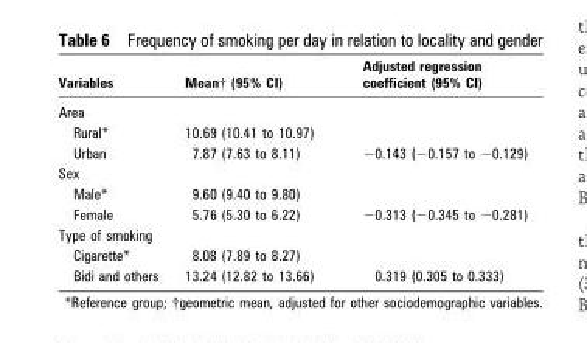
<table><thead><tr><td>Variables</td><td>Mean† (95% CI)</td><td>Adjusted regression coefficient (95% CI)</td></tr></thead><tbody><tr><td colspan="3">Area</td></tr><tr><td>Rural*</td><td>10.69 (10.41 to 10.97)</td><td></td></tr><tr><td>Urban</td><td>7.87 (7.63 to 8.11)</td><td>−0.143 (−0.157 to −0.129)</td></tr><tr><td colspan="3">Sex</td></tr><tr><td>Male*</td><td>9.60 (9.40 to 9.80)</td><td></td></tr><tr><td>Female</td><td>5.76 (5.30 to 6.22)</td><td>−0.313 (−0.345 to −0.281)</td></tr><tr><td colspan="3">Type of smoking</td></tr><tr><td>Cigarette*</td><td>8.08 (7.89 to 8.27)</td><td></td></tr><tr><td>Bidi and others</td><td>13.24 (12.82 to 13.66)</td><td>0.319 (0.305 to 0.333)</td></tr></tbody></table>